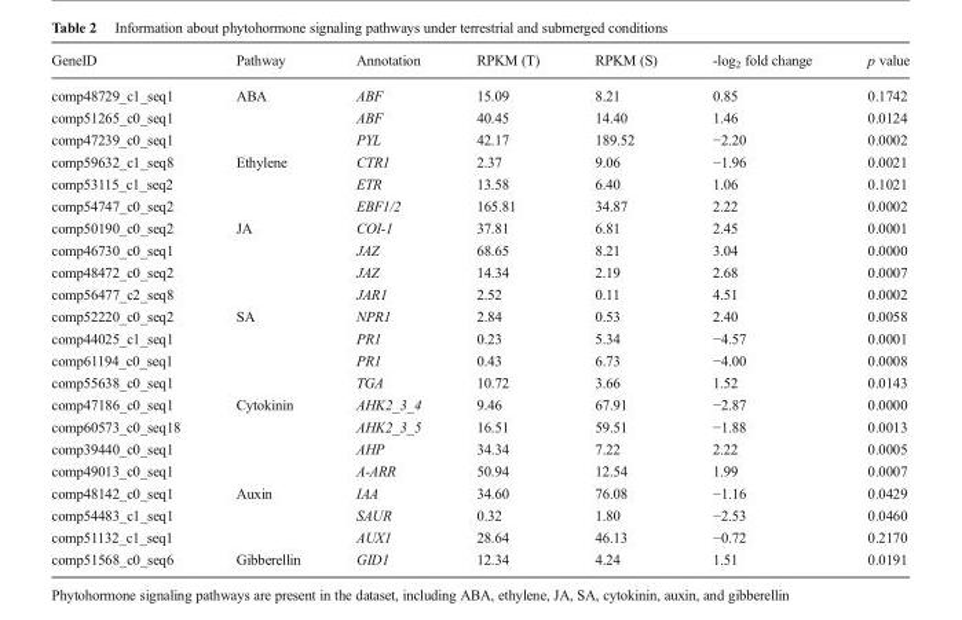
<table><thead><tr><td>GeneID</td><td>Pathway</td><td>Annotation</td><td>RPKM (T)</td><td>RPKM (S)</td><td>-log<sub>2</sub> fold change</td><td>p value</td></tr></thead><tbody><tr><td>comp48729_c1_seq1</td><td>ABA</td><td>ABF</td><td>15.09</td><td>8.21</td><td>0.85</td><td>0.1742</td></tr><tr><td>comp51265_c0_seq1</td><td></td><td>ABF</td><td>40.45</td><td>14.40</td><td>1.46</td><td>0.0124</td></tr><tr><td>comp47239_c0_seq1</td><td></td><td>PYL</td><td>42.17</td><td>189.52</td><td>−2.20</td><td>0.0002</td></tr><tr><td>comp59632_c1_seq8</td><td>Ethylene</td><td>CTR1</td><td>2.37</td><td>9.06</td><td>−1.96</td><td>0.0021</td></tr><tr><td>comp53115_c1_seq2</td><td></td><td>ETR</td><td>13.58</td><td>6.40</td><td>1.06</td><td>0.1021</td></tr><tr><td>comp54747_c0_seq2</td><td></td><td>EBF1/2</td><td>165.81</td><td>34.87</td><td>2.22</td><td>0.0002</td></tr><tr><td>comp50190_c0_seq2</td><td>JA</td><td>COI-1</td><td>37.81</td><td>6.81</td><td>2.45</td><td>0.0001</td></tr><tr><td>comp46730_c0_seq1</td><td></td><td>JAZ</td><td>68.65</td><td>8.21</td><td>3.04</td><td>0.0000</td></tr><tr><td>comp48472_c0_seq2</td><td></td><td>JAZ</td><td>14.34</td><td>2.19</td><td>2.68</td><td>0.0007</td></tr><tr><td>comp56477_c2_seq8</td><td></td><td>JAR1</td><td>2.52</td><td>0.11</td><td>4.51</td><td>0.0002</td></tr><tr><td>comp52220_c0_seq2</td><td>SA</td><td>NPR1</td><td>2.84</td><td>0.53</td><td>2.40</td><td>0.0058</td></tr><tr><td>comp44025_c1_seq1</td><td></td><td>PR1</td><td>0.23</td><td>5.34</td><td>−4.57</td><td>0.0001</td></tr><tr><td>comp61194_c0_seq1</td><td></td><td>PR1</td><td>0.43</td><td>6.73</td><td>−4.00</td><td>0.0008</td></tr><tr><td>comp55638_c0_seq1</td><td></td><td>TGA</td><td>10.72</td><td>3.66</td><td>1.52</td><td>0.0143</td></tr><tr><td>comp47186_c0_seq1</td><td>Cytokinin</td><td>AHK2_3_4</td><td>9.46</td><td>67.91</td><td>−2.87</td><td>0.0000</td></tr><tr><td>comp60573_c0_seq18</td><td></td><td>AHK2_3_5</td><td>16.51</td><td>59.51</td><td>−1.88</td><td>0.0013</td></tr><tr><td>comp39440_c0_seq1</td><td></td><td>AHP</td><td>34.34</td><td>7.22</td><td>2.22</td><td>0.0005</td></tr><tr><td>comp49013_c0_seq1</td><td></td><td>A-ARR</td><td>50.94</td><td>12.54</td><td>1.99</td><td>0.0007</td></tr><tr><td>comp48142_c0_seq1</td><td>Auxin</td><td>IAA</td><td>34.60</td><td>76.08</td><td>−1.16</td><td>0.0429</td></tr><tr><td>comp54483_c1_seq1</td><td></td><td>SAUR</td><td>0.32</td><td>1.80</td><td>−2.53</td><td>0.0460</td></tr><tr><td>comp51132_c1_seq1</td><td></td><td>AUX1</td><td>28.64</td><td>46.13</td><td>−0.72</td><td>0.2170</td></tr><tr><td>comp51568_c0_seq6</td><td>Gibberellin</td><td>GID1</td><td>12.34</td><td>4.24</td><td>1.51</td><td>0.0191</td></tr></tbody></table>